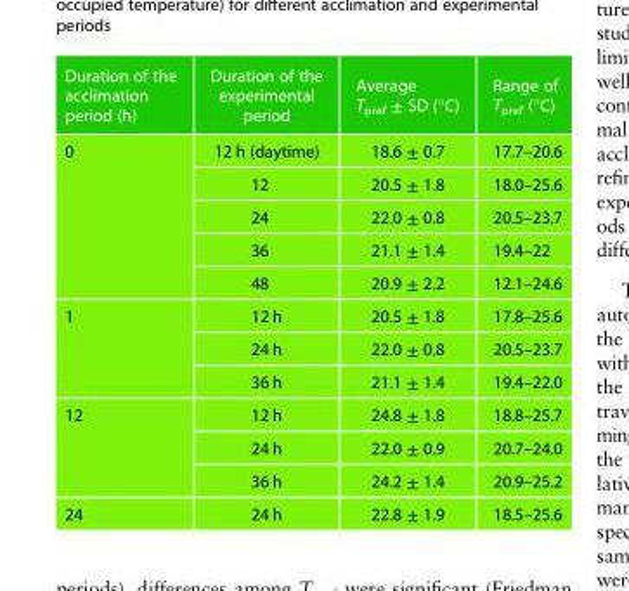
<table><thead><tr><td>Duration of the acclimation period (h)</td><td>Duration of the experimental period</td><td>Average T<sub>pref</sub> ± SD (°C)</td><td>Range of T<sub>pref</sub> (°C)</td></tr></thead><tbody><tr><td rowspan="5">0</td><td>12 h (daytime)</td><td>18.6 ± 0.7</td><td>17.7–20.6</td></tr><tr><td>12</td><td>20.5 ± 1.8</td><td>18.0–25.6</td></tr><tr><td>24</td><td>22.0 ± 0.8</td><td>20.5–23.7</td></tr><tr><td>36</td><td>21.1 ± 1.4</td><td>19.4–22</td></tr><tr><td>48</td><td>20.9 ± 2.2</td><td>12.1–24.6</td></tr><tr><td rowspan="3">1</td><td>12 h</td><td>20.5 ± 1.8</td><td>17.8–25.6</td></tr><tr><td>24 h</td><td>22.0 ± 0.8</td><td>20.5–23.7</td></tr><tr><td>36 h</td><td>21.1 ± 1.4</td><td>19.4–22.0</td></tr><tr><td rowspan="3">12</td><td>12 h</td><td>24.8 ± 1.8</td><td>18.8–25.7</td></tr><tr><td>24 h</td><td>22.0 ± 0.9</td><td>20.7–24.0</td></tr><tr><td>36 h</td><td>24.2 ± 1.4</td><td>20.9–25.2</td></tr><tr><td>24</td><td>24 h</td><td>22.8 ± 1.9</td><td>18.5–25.6</td></tr></tbody></table>